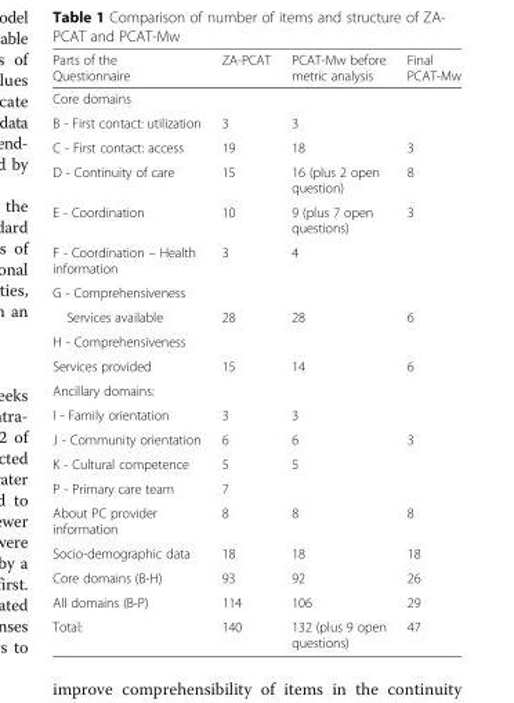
<table><thead><tr><td>Parts of the Questionnaire</td><td>ZA-PCAT</td><td>PCAT-Mw before metric analysis</td><td>Final PCAT-Mw</td></tr></thead><tbody><tr><td colspan="4">Core domains</td></tr><tr><td>B - First contact: utilization</td><td>3</td><td>3</td><td></td></tr><tr><td>C - First contact: access</td><td>19</td><td>18</td><td>3</td></tr><tr><td>D - Continuity of care</td><td>15</td><td>16 (plus 2 open question)</td><td>8</td></tr><tr><td>E - Coordination</td><td>10</td><td>9 (plus 7 open questions)</td><td>3</td></tr><tr><td>F - Coordination – Health information</td><td>3</td><td>4</td><td></td></tr><tr><td colspan="4">G - Comprehensiveness</td></tr><tr><td>Services available</td><td>28</td><td>28</td><td>6</td></tr><tr><td colspan="4">H - Comprehensiveness</td></tr><tr><td>Services provided</td><td>15</td><td>14</td><td>6</td></tr><tr><td colspan="4">Ancillary domains:</td></tr><tr><td>I - Family orientation</td><td>3</td><td>3</td><td></td></tr><tr><td>J - Community orientation</td><td>6</td><td>6</td><td>3</td></tr><tr><td>K - Cultural competence</td><td>5</td><td>5</td><td></td></tr><tr><td>P - Primary care team</td><td>7</td><td></td><td></td></tr><tr><td>About PC provider information</td><td>8</td><td>8</td><td>8</td></tr><tr><td>Socio-demographic data</td><td>18</td><td>18</td><td>18</td></tr><tr><td>Core domains (B-H)</td><td>93</td><td>92</td><td>26</td></tr><tr><td>All domains (B-P)</td><td>114</td><td>106</td><td>29</td></tr><tr><td>Total:</td><td>140</td><td>132 (plus 9 open questions)</td><td>47</td></tr></tbody></table>